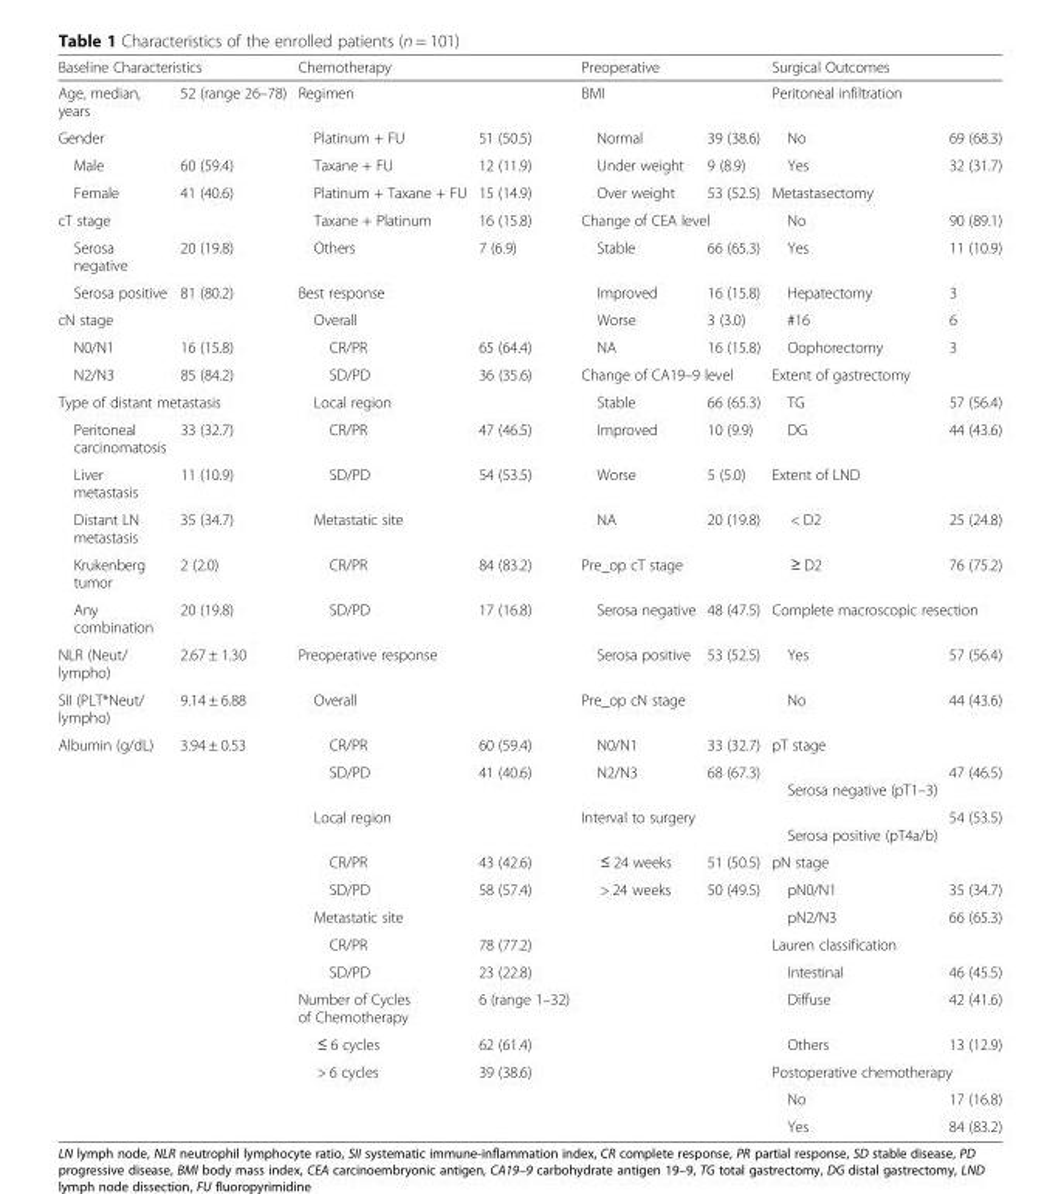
<table><thead><tr><td colspan="2">Baseline Characteristics</td><td rowspan="2" colspan="2">Chemotherapy Regimen</td><td rowspan="2" colspan="2">Preoperative BMI</td><td rowspan="2" colspan="2">Surgical Outcomes Peritoneal infiltration</td></tr><tr><td>Age, median, years</td><td>52 (range 26–78)</td></tr><tr><td colspan="2">Gender</td><td>Platinum + FU</td><td>51 (50.5)</td><td>Normal</td><td>39 (38.6)</td><td>No</td><td>69 (68.3)</td></tr></thead><tbody><tr><td>Male</td><td>60 (59.4)</td><td>Taxane + FU</td><td>12 (11.9)</td><td>Under weight</td><td>9 (8.9)</td><td>Yes</td><td>32 (31.7)</td></tr><tr><td>Female</td><td>41 (40.6)</td><td>Platinum + Taxane + FU</td><td>15 (14.9)</td><td>Over weight</td><td>53 (52.5)</td><td colspan="2">Metastasectomy</td></tr><tr><td colspan="2">cT stage</td><td>Taxane + Platinum</td><td>16 (15.8)</td><td colspan="2">Change of CEA level</td><td>No</td><td>90 (89.1)</td></tr><tr><td>Serosa negative</td><td>20 (19.8)</td><td>Others</td><td>7 (6.9)</td><td>Stable</td><td>66 (65.3)</td><td>Yes</td><td>11 (10.9)</td></tr><tr><td>Serosa positive</td><td>81 (80.2)</td><td colspan="2">Best response</td><td>Improved</td><td>16 (15.8)</td><td>Hepatectomy</td><td>3</td></tr><tr><td>cN stage</td><td></td><td colspan="2">Overall</td><td>Worse</td><td>3 (3.0)</td><td>#16</td><td>6</td></tr><tr><td>N0/N1</td><td>16 (15.8)</td><td>CR/PR</td><td>65 (64.4)</td><td>NA</td><td>16 (15.8)</td><td>Oophorectomy</td><td>3</td></tr><tr><td>N2/N3</td><td>85 (84.2)</td><td>SD/PD</td><td>36 (35.6)</td><td colspan="2">Change of CA19–9 level</td><td colspan="2">Extent of gastrectomy</td></tr><tr><td colspan="2">Type of distant metastasis</td><td colspan="2">Local region</td><td>Stable</td><td>66 (65.3)</td><td>TG</td><td>57 (56.4)</td></tr><tr><td>Peritoneal carcinomatosis</td><td>33 (32.7)</td><td>CR/PR</td><td>47 (46.5)</td><td>Improved</td><td>10 (9.9)</td><td>DG</td><td>44 (43.6)</td></tr><tr><td>Liver metastasis</td><td>11 (10.9)</td><td>SD/PD</td><td>54 (53.5)</td><td>Worse</td><td>5 (5.0)</td><td colspan="2">Extent of LND</td></tr><tr><td>Distant LN metastasis</td><td>35 (34.7)</td><td colspan="2">Metastatic site</td><td>NA</td><td>20 (19.8)</td><td>&lt; D2</td><td>25 (24.8)</td></tr><tr><td>Krukenberg tumor</td><td>2 (2.0)</td><td>CR/PR</td><td>84 (83.2)</td><td colspan="2">Pre_op cT stage</td><td>≥ D2</td><td>76 (75.2)</td></tr><tr><td>Any combination</td><td>20 (19.8)</td><td>SD/PD</td><td>17 (16.8)</td><td>Serosa negative</td><td>48 (47.5)</td><td colspan="2">Complete macroscopic resection</td></tr><tr><td>NLR (Neut/ lympho)</td><td>2.67 ± 1.30</td><td colspan="2">Preoperative response</td><td>Serosa positive</td><td>53 (52.5)</td><td>Yes</td><td>57 (56.4)</td></tr><tr><td>SII (PLT*Neut/ lympho)</td><td>9.14 ± 6.88</td><td colspan="2">Overall</td><td>Pre_op cN stage</td><td></td><td>No</td><td>44 (43.6)</td></tr><tr><td rowspan="13">Albumin (g/dL)</td><td>3.94 ± 0.53</td><td>CR/PR</td><td>60 (59.4)</td><td>N0/N1</td><td>33 (32.7)</td><td colspan="2">pT stage</td></tr><tr><td></td><td>SD/PD</td><td>41 (40.6)</td><td>N2/N3</td><td>68 (67.3)</td><td>Serosa negative (pT1–3)</td><td>47 (46.5)</td></tr><tr><td></td><td colspan="2">Local region</td><td colspan="2">Interval to surgery</td><td>Serosa positive (pT4a/b)</td><td>54 (53.5)</td></tr><tr><td></td><td>CR/PR</td><td>43 (42.6)</td><td>≤ 24 weeks</td><td>51 (50.5)</td><td colspan="2">pN stage</td></tr><tr><td></td><td>SD/PD</td><td>58 (57.4)</td><td>&gt; 24 weeks</td><td>50 (49.5)</td><td>pN0/N1</td><td>35 (34.7)</td></tr><tr><td></td><td colspan="2">Metastatic site</td><td></td><td></td><td>pN2/N3</td><td>66 (65.3)</td></tr><tr><td></td><td>CR/PR</td><td>78 (77.2)</td><td></td><td></td><td colspan="2">Lauren classification</td></tr><tr><td></td><td>SD/PD</td><td>23 (22.8)</td><td></td><td></td><td>Intestinal</td><td>46 (45.5)</td></tr><tr><td></td><td>Number of Cycles of Chemotherapy</td><td>6 (range 1–32)</td><td></td><td></td><td>Diffuse</td><td>42 (41.6)</td></tr><tr><td></td><td>≤ 6 cycles</td><td>62 (61.4)</td><td></td><td></td><td>Others</td><td>13 (12.9)</td></tr><tr><td></td><td>&gt; 6 cycles</td><td>39 (38.6)</td><td></td><td></td><td colspan="2">Postoperative chemotherapy</td></tr><tr><td></td><td></td><td></td><td></td><td></td><td>No</td><td>17 (16.8)</td></tr><tr><td></td><td></td><td></td><td></td><td></td><td>Yes</td><td>84 (83.2)</td></tr></tbody></table>